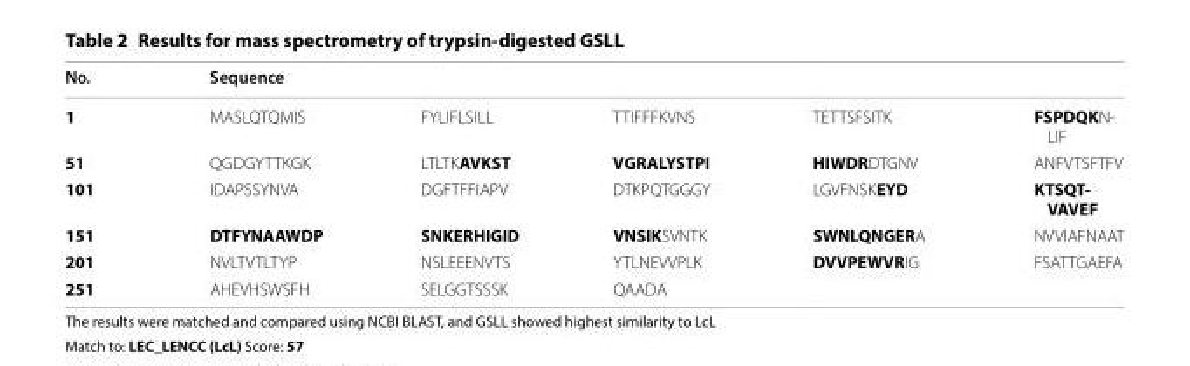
<table><thead><tr><td rowspan="2">No. 1</td><td colspan="5">Sequence</td></tr><tr><td>MASLQTQMIS</td><td>FYLIFLSILL</td><td>TTIFFFKVNS</td><td>TETTSFSITK</td><td>FSPDQKN- LIF</td></tr></thead><tbody><tr><td>51</td><td>QGDGYTTKGK</td><td>LTLTKAVKST</td><td>VGRALYSTPI</td><td>HIWDRDTGNV</td><td>ANFVTSFTFV</td></tr><tr><td>101</td><td>IDAPSSYNVA</td><td>DGFTFFIAPV</td><td>DTKPQTGGGY</td><td>LGVFNSKEYD</td><td>KTSQT- VAVEF</td></tr><tr><td>151</td><td>DTFYNAAWDP</td><td>SNKERHIGID</td><td>VNSIKSVNTK</td><td>SWNLQNGERA</td><td>NVVIAFNAAT</td></tr><tr><td>201</td><td>NVLTVTLTYP</td><td>NSLEEENVTS</td><td>YTLNEVVPLK</td><td>DVVPEWVRIG</td><td>FSATTGAEFA</td></tr><tr><td>251</td><td>AHEVHSWSFH</td><td>SELGGTSSSK</td><td>QAADA</td><td></td><td></td></tr></tbody></table>